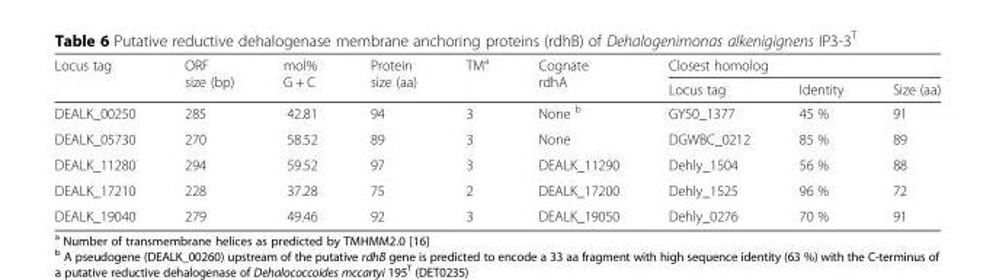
<table><thead><tr><td rowspan="2">Locus tag</td><td rowspan="2">ORF size (bp)</td><td rowspan="2">mol% G + C</td><td rowspan="2">Protein size (aa)</td><td rowspan="2">TM<sup>a</sup></td><td rowspan="2">Cognate rdhA</td><td colspan="3">Closest homolog</td></tr><tr><td>Locus tag</td><td>Identity</td><td>Size (aa)</td></tr></thead><tbody><tr><td>DEALK_00250</td><td>285</td><td>42.81</td><td>94</td><td>3</td><td>None <sup>b</sup></td><td>GY50_1377</td><td>45 %</td><td>91</td></tr><tr><td>DEALK_05730</td><td>270</td><td>58.52</td><td>89</td><td>3</td><td>None</td><td>DGWBC_0212</td><td>85 %</td><td>89</td></tr><tr><td>DEALK_11280</td><td>294</td><td>59.52</td><td>97</td><td>3</td><td>DEALK_11290</td><td>Dehly_1504</td><td>56 %</td><td>88</td></tr><tr><td>DEALK_17210</td><td>228</td><td>37.28</td><td>75</td><td>2</td><td>DEALK_17200</td><td>Dehly_1525</td><td>96 %</td><td>72</td></tr><tr><td>DEALK_19040</td><td>279</td><td>49.46</td><td>92</td><td>3</td><td>DEALK_19050</td><td>Dehly_0276</td><td>70 %</td><td>91</td></tr></tbody></table>